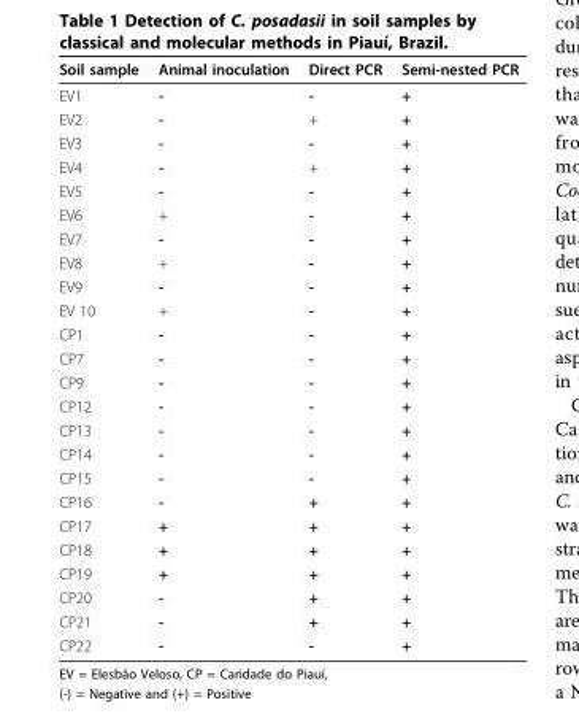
<table><thead><tr><td>Soil sample</td><td>Animal inoculation</td><td>Direct PCR</td><td>Semi-nested PCR</td></tr></thead><tbody><tr><td>EV1</td><td>-</td><td>-</td><td>+</td></tr><tr><td>EV2</td><td>-</td><td>+</td><td>+</td></tr><tr><td>EV3</td><td>-</td><td>-</td><td>+</td></tr><tr><td>EV4</td><td>-</td><td>+</td><td>+</td></tr><tr><td>EV5</td><td>-</td><td>-</td><td>+</td></tr><tr><td>EV6</td><td>+</td><td>-</td><td>+</td></tr><tr><td>EV7</td><td>-</td><td>-</td><td>+</td></tr><tr><td>EV8</td><td>+</td><td>-</td><td>+</td></tr><tr><td>EV9</td><td>-</td><td>-</td><td>+</td></tr><tr><td>EV 10</td><td>+</td><td>-</td><td>+</td></tr><tr><td>CP1</td><td>-</td><td>-</td><td>+</td></tr><tr><td>CP7</td><td>-</td><td>-</td><td>+</td></tr><tr><td>CP9</td><td>-</td><td>-</td><td>+</td></tr><tr><td>CP12</td><td>-</td><td>-</td><td>+</td></tr><tr><td>CP13</td><td>-</td><td>-</td><td>+</td></tr><tr><td>CP14</td><td>-</td><td>-</td><td>+</td></tr><tr><td>CP15</td><td>-</td><td>-</td><td>+</td></tr><tr><td>CP16</td><td>-</td><td>+</td><td>+</td></tr><tr><td>CP17</td><td>+</td><td>+</td><td>+</td></tr><tr><td>CP18</td><td>+</td><td>+</td><td>+</td></tr><tr><td>CP19</td><td>+</td><td>+</td><td>+</td></tr><tr><td>CP20</td><td>-</td><td>+</td><td>+</td></tr><tr><td>CP21</td><td>-</td><td>+</td><td>+</td></tr><tr><td>CP22</td><td>-</td><td>-</td><td>+</td></tr></tbody></table>